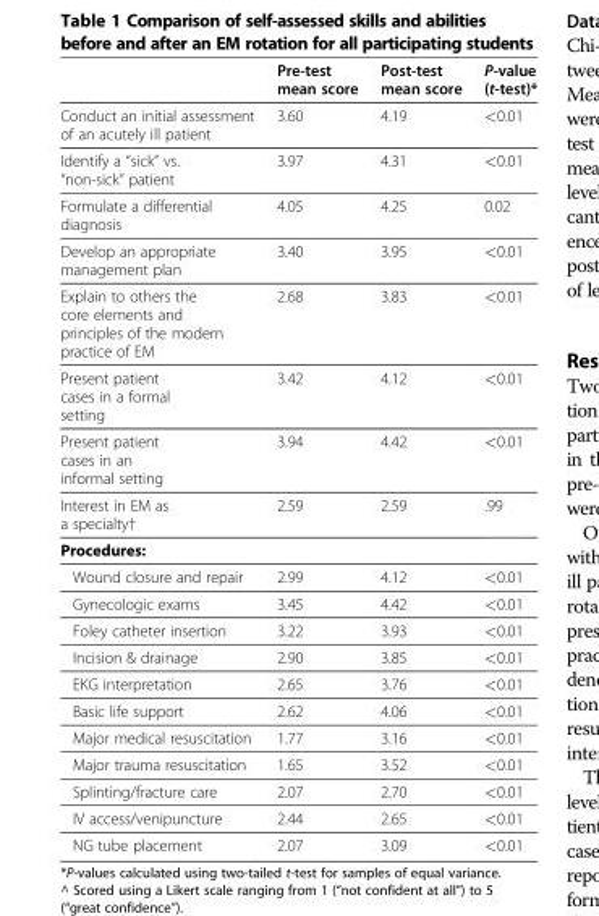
<table><thead><tr><td></td><td>Pre-test mean score</td><td>Post-test mean score</td><td>P-value (t-test)*</td></tr></thead><tbody><tr><td>Conduct an initial assessment of an acutely ill patient</td><td>3.60</td><td>4.19</td><td>&lt;0.01</td></tr><tr><td>Identify a “sick” vs. “non-sick” patient</td><td>3.97</td><td>4.31</td><td>&lt;0.01</td></tr><tr><td>Formulate a differential diagnosis</td><td>4.05</td><td>4.25</td><td>0.02</td></tr><tr><td>Develop an appropriate management plan</td><td>3.40</td><td>3.95</td><td>&lt;0.01</td></tr><tr><td>Explain to others the core elements and principles of the modern practice of EM</td><td>2.68</td><td>3.83</td><td>&lt;0.01</td></tr><tr><td>Present patient cases in a formal setting</td><td>3.42</td><td>4.12</td><td>&lt;0.01</td></tr><tr><td>Present patient cases in an informal setting</td><td>3.94</td><td>4.42</td><td>&lt;0.01</td></tr><tr><td>Interest in EM as a specialty†</td><td>2.59</td><td>2.59</td><td>.99</td></tr><tr><td colspan="4">Procedures:</td></tr><tr><td>Wound closure and repair</td><td>2.99</td><td>4.12</td><td>&lt;0.01</td></tr><tr><td>Gynecologic exams</td><td>3.45</td><td>4.42</td><td>&lt;0.01</td></tr><tr><td>Foley catheter insertion</td><td>3.22</td><td>3.93</td><td>&lt;0.01</td></tr><tr><td>Incision &amp; drainage</td><td>2.90</td><td>3.85</td><td>&lt;0.01</td></tr><tr><td>EKG interpretation</td><td>2.65</td><td>3.76</td><td>&lt;0.01</td></tr><tr><td>Basic life support</td><td>2.62</td><td>4.06</td><td>&lt;0.01</td></tr><tr><td>Major medical resuscitation</td><td>1.77</td><td>3.16</td><td>&lt;0.01</td></tr><tr><td>Major trauma resuscitation</td><td>1.65</td><td>3.52</td><td>&lt;0.01</td></tr><tr><td>Splinting/fracture care</td><td>2.07</td><td>2.70</td><td>&lt;0.01</td></tr><tr><td>IV access/venipuncture</td><td>2.44</td><td>2.65</td><td>&lt;0.01</td></tr><tr><td>NG tube placement</td><td>2.07</td><td>3.09</td><td>&lt;0.01</td></tr></tbody></table>